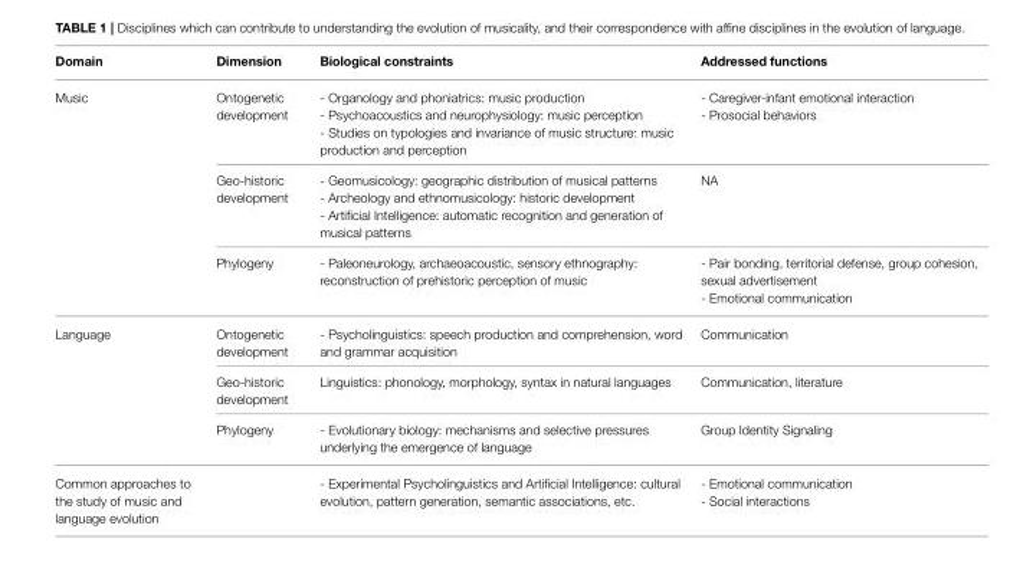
<table><thead><tr><td>Domain</td><td>Dimension</td><td>Biological constraints</td><td>Addressed functions</td></tr></thead><tbody><tr><td rowspan="3">Music</td><td>Ontogenetic development</td><td>- Organology and phoniatrics: music production - Psychoacoustics and neurophysiology: music perception - Studies on typologies and invariance of music structure: music production and perception</td><td>- Caregiver-infant emotional interaction - Prosocial behaviors</td></tr><tr><td>Geo-historic development</td><td>- Geomusicology: geographic distribution of musical patterns - Archeology and ethnomusicology: historic development - Artificial Intelligence: automatic recognition and generation of musical patterns</td><td>NA</td></tr><tr><td>Phylogeny</td><td>- Paleoneurology, archaeoacoustic, sensory ethnography: reconstruction of prehistoric perception of music</td><td>- Pair bonding, territorial defense, group cohesion, sexual advertisement - Emotional communication</td></tr><tr><td rowspan="3">Language</td><td>Ontogenetic development</td><td>- Psycholinguistics: speech production and comprehension, word and grammar acquisition</td><td>Communication</td></tr><tr><td>Geo-historic development</td><td>Linguistics: phonology, morphology, syntax in natural languages</td><td>Communication, literature</td></tr><tr><td>Phylogeny</td><td>- Evolutionary biology: mechanisms and selective pressures underlying the emergence of language</td><td>Group Identity Signaling</td></tr><tr><td>Common approaches to the study of music and language evolution</td><td></td><td>- Experimental Psycholinguistics and Artificial Intelligence: cultural evolution, pattern generation, semantic associations, etc.</td><td>- Emotional communication - Social interactions</td></tr></tbody></table>